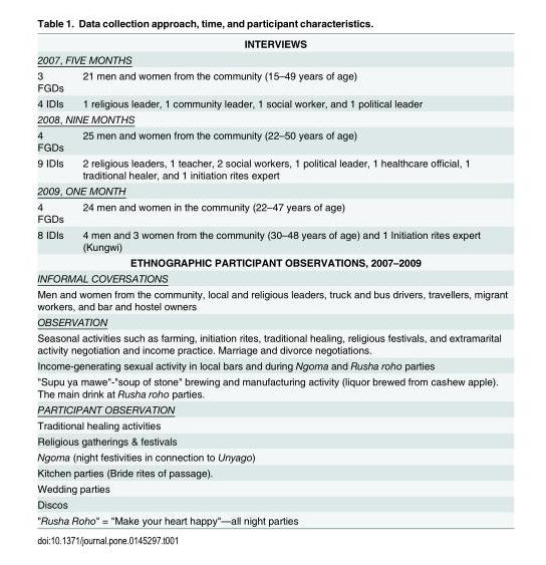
<table><tbody><tr><td colspan="2">INTERVIEWS</td></tr><tr><td colspan="2">2007, FIVE MONTHS</td></tr><tr><td>3 FGDs</td><td>21 men and women from the community (15–49 years of age)</td></tr><tr><td>4 IDIs</td><td>1 religious leader, 1 community leader, 1 social worker, and 1 political leader</td></tr><tr><td colspan="2">2008, NINE MONTHS</td></tr><tr><td>4 FGDs</td><td>25 men and women from the community (22–50 years of age)</td></tr><tr><td>9 IDIs</td><td>2 religious leaders, 1 teacher, 2 social workers, 1 political leader, 1 healthcare official, 1 traditional healer, and 1 initiation rites expert</td></tr><tr><td colspan="2">2009, ONE MONTH</td></tr><tr><td>4 FGDs</td><td>24 men and women in the community (22–47 years of age)</td></tr><tr><td>8 IDIs</td><td>4 men and 3 women from the community (30–48 years of age) and 1 Initiation rites expert (Kungwi)</td></tr><tr><td colspan="2">ETHNOGRAPHIC PARTICIPANT OBSERVATIONS, 2007–2009</td></tr><tr><td colspan="2">INFORMAL COVERSATIONS</td></tr><tr><td colspan="2">Men and women from the community, local and religious leaders, truck and bus drivers, travellers, migrant workers, and bar and hostel owners</td></tr><tr><td colspan="2">OBSERVATION</td></tr><tr><td colspan="2">Seasonal activities such as farming, initiation rites, traditional healing, religious festivals, and extramarital activity negotiation and income practice. Marriage and divorce negotiations.</td></tr><tr><td colspan="2">Income-generating sexual activity in local bars and during Ngoma and Rusha roho parties</td></tr><tr><td colspan="2">&quot;Supu ya mawe&quot;-&quot;soup of stone&quot; brewing and manufacturing activity (liquor brewed from cashew apple). The main drink at Rusha roho parties.</td></tr><tr><td colspan="2">PARTICIPANT OBSERVATION</td></tr><tr><td colspan="2">Traditional healing activities</td></tr><tr><td colspan="2">Religious gatherings &amp; festivals</td></tr><tr><td colspan="2">Ngoma (night festivities in connection to Unyago)</td></tr><tr><td colspan="2">Kitchen parties (Bride rites of passage).</td></tr><tr><td colspan="2">Wedding parties</td></tr><tr><td colspan="2">Discos</td></tr><tr><td colspan="2">&quot;Rusha Roho&quot; = &quot;Make your heart happy&quot;—all night parties</td></tr></tbody></table>